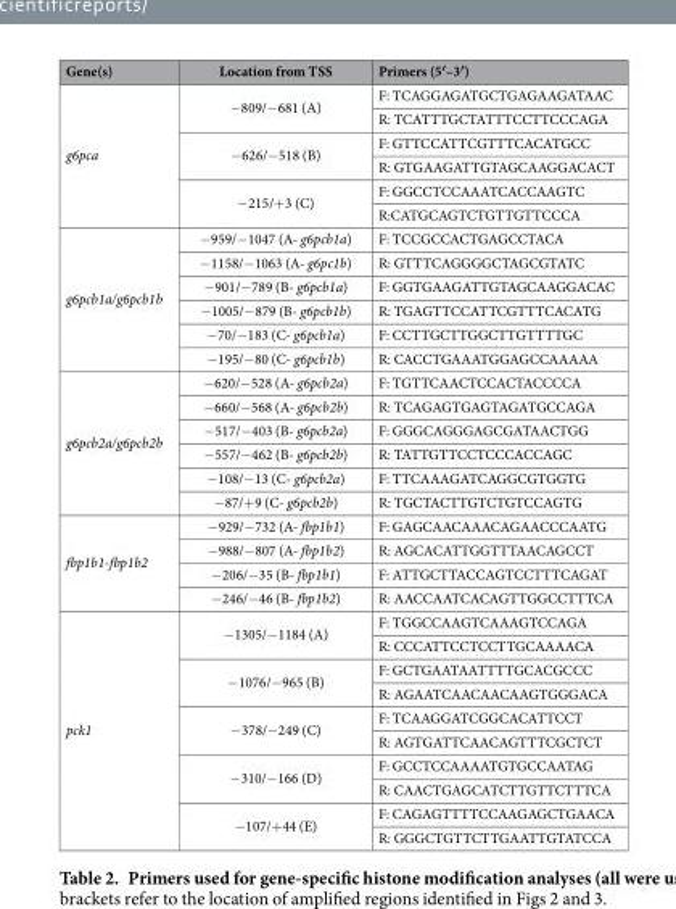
<table><thead><tr><td>Gene(s)</td><td>Location from TSS</td><td>Primers (5′–3′)</td></tr></thead><tbody><tr><td rowspan="6">g6pca</td><td rowspan="2">− 809/− 681 (A)</td><td>F: TCAGGAGATGCTGAGAAGATAAC</td></tr><tr><td>R: TCATTTGCTATTTCCTTCCCAGA</td></tr><tr><td rowspan="2">− 626/− 518 (B)</td><td>F: GTTCCATTCGTTTCACATGCC</td></tr><tr><td>R: GTGAAGATTGTAGCAAGGACACT</td></tr><tr><td rowspan="2">− 215/+ 3 (C)</td><td>F: GGCCTCCAAATCACCAAGTC</td></tr><tr><td>R:CATGCAGTCTGTTGTTCCCA</td></tr><tr><td rowspan="6">g6pcb1a/g6pcb1b</td><td>− 959/− 1047 (A- g6pcb1a)</td><td>F: TCCGCCACTGAGCCTACA</td></tr><tr><td>− 1158/− 1063 (A- g6pc1b)</td><td>R: GTTTCAGGGGCTAGCGTATC</td></tr><tr><td>− 901/− 789 (B- g6pcb1a)</td><td>F: GGTGAAGATTGTAGCAAGGACAC</td></tr><tr><td>− 1005/− 879 (B- g6pcb1b)</td><td>R: TGAGTTCCATTCGTTTCACATG</td></tr><tr><td>− 70/− 183 (C- g6pcb1a)</td><td>F: CCTTGCTTGGCTTGTTTTGC</td></tr><tr><td>− 195/− 80 (C- g6pcb1b)</td><td>R: CACCTGAAATGGAGCCAAAAA</td></tr><tr><td rowspan="6">g6pcb2a/g6pcb2b</td><td>− 620/− 528 (A- g6pcb2a)</td><td>F: TGTTCAACTCCACTACCCCA</td></tr><tr><td>− 660/− 568 (A- g6pcb2b)</td><td>R: TCAGAGTGAGTAGATGCCAGA</td></tr><tr><td>− 517/− 403 (B- g6pcb2a)</td><td>F: GGGCAGGGAGCGATAACTGG</td></tr><tr><td>− 557/− 462 (B- g6pcb2b)</td><td>R: TATTGTTCCTCCCACCAGC</td></tr><tr><td>− 108/− 13 (C- g6pcb2a)</td><td>F: TTCAAAGATCAGGCGTGGTG</td></tr><tr><td>− 87/+ 9 (C- g6pcb2b)</td><td>R: TGCTACTTGTCTGTCCAGTG</td></tr><tr><td rowspan="4">fbp1b1-fbp1b2</td><td>− 929/− 732 (A- fbp1b1)</td><td>F: GAGCAACAAACAGAACCCAATG</td></tr><tr><td>− 988/− 807 (A- fbp1b2)</td><td>R: AGCACATTGGTTTAACAGCCT</td></tr><tr><td>− 206/− 35 (B- fbp1b1)</td><td>F: ATTGCTTACCAGTCCTTTCAGAT</td></tr><tr><td>− 246/− 46 (B- fbp1b2)</td><td>R: AACCAATCACAGTTGGCCTTTCA</td></tr><tr><td rowspan="10">pck1</td><td rowspan="2">− 1305/− 1184 (A)</td><td>F: TGGCCAAGTCAAAGTCCAGA</td></tr><tr><td>R: CCCATTCCTCCTTGCAAAACA</td></tr><tr><td rowspan="2">− 1076/− 965 (B)</td><td>F: GCTGAATAATTTTGCACGCCC</td></tr><tr><td>R: AGAATCAACAACAAGTGGGACA</td></tr><tr><td rowspan="2">− 378/− 249 (C)</td><td>F: TCAAGGATCGGCACATTCCT</td></tr><tr><td>R: AGTGATTCAACAGTTTCGCTCT</td></tr><tr><td rowspan="2">− 310/− 166 (D)</td><td>F: GCCTCCAAAATGTGCCAATAG</td></tr><tr><td>R: CAACTGAGCATCTTGTTCTTTCA</td></tr><tr><td rowspan="2">− 107/+ 44 (E)</td><td>F: CAGAGTTTTCCAAGAGCTGAACA</td></tr><tr><td>R: GGGCTGTTCTTGAATTGTATCCA</td></tr></tbody></table>